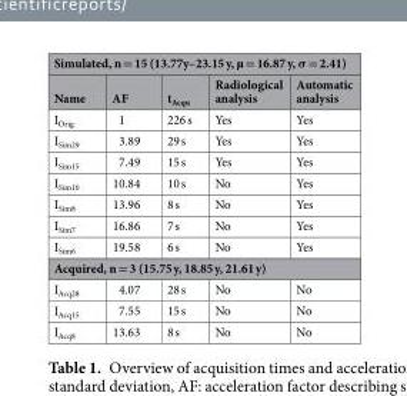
<table><thead><tr><td colspan="5">Simulated, n = 15 (13.77y–23.15 y, µ = 16.87 y, σ = 2.41)</td></tr><tr><td>Name</td><td>AF</td><td>t<sub>Acqu</sub></td><td>Radiological analysis</td><td>Automatic analysis</td></tr></thead><tbody><tr><td>I<sub>Orig</sub></td><td>1</td><td>226 s</td><td>Yes</td><td>Yes</td></tr><tr><td>I<sub>Sim29</sub></td><td>3.89</td><td>29 s</td><td>Yes</td><td>Yes</td></tr><tr><td>I<sub>Sim15</sub></td><td>7.49</td><td>15 s</td><td>Yes</td><td>Yes</td></tr><tr><td>I<sub>Sim10</sub></td><td>10.84</td><td>10 s</td><td>No</td><td>Yes</td></tr><tr><td>I<sub>Sim8</sub></td><td>13.96</td><td>8 s</td><td>No</td><td>Yes</td></tr><tr><td>I<sub>Sim7</sub></td><td>16.86</td><td>7 s</td><td>No</td><td>Yes</td></tr><tr><td>I<sub>Sim6</sub></td><td>19.58</td><td>6 s</td><td>No</td><td>Yes</td></tr><tr><td colspan="5">Acquired, n = 3 (15.75 y, 18.85 y, 21.61 y)</td></tr><tr><td>I<sub>Acq28</sub></td><td>4.07</td><td>28 s</td><td>No</td><td>No</td></tr><tr><td>I<sub>Acq15</sub></td><td>7.55</td><td>15 s</td><td>No</td><td>No</td></tr><tr><td>I<sub>Acq8</sub></td><td>13.63</td><td>8 s</td><td>No</td><td>No</td></tr></tbody></table>